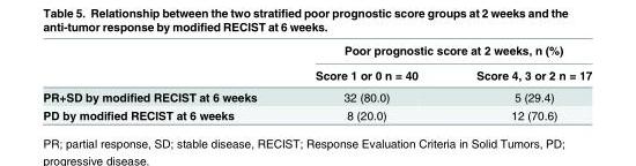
<table><thead><tr><td rowspan="2"></td><td colspan="2">Poor prognostic score at 2 weeks, n (%)</td></tr><tr><td>Score 1 or 0 n = 40</td><td>Score 4, 3 or 2 n = 17</td></tr></thead><tbody><tr><td>PR+SD by modified RECIST at 6 weeks</td><td>32 (80.0)</td><td>5 (29.4)</td></tr><tr><td>PD by modified RECIST at 6 weeks</td><td>8 (20.0)</td><td>12 (70.6)</td></tr></tbody></table>